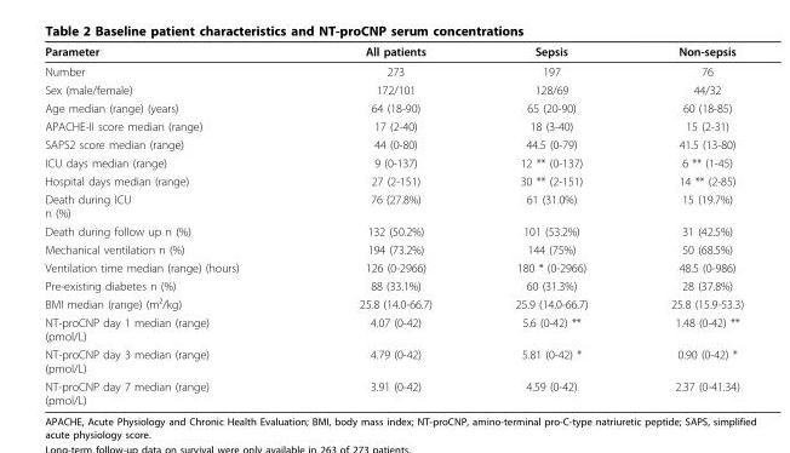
<table><thead><tr><td>Parameter</td><td>All patients</td><td>Sepsis</td><td>Non-sepsis</td></tr></thead><tbody><tr><td>Number</td><td>273</td><td>197</td><td>76</td></tr><tr><td>Sex (male/female)</td><td>172/101</td><td>128/69</td><td>44/32</td></tr><tr><td>Age median (range) (years)</td><td>64 (18-90)</td><td>65 (20-90)</td><td>60 (18-85)</td></tr><tr><td>APACHE-II score median (range)</td><td>17 (2-40)</td><td>18 (3-40)</td><td>15 (2-31)</td></tr><tr><td>SAPS2 score median (range)</td><td>44 (0-80)</td><td>44.5 (0-79)</td><td>41.5 (13-80)</td></tr><tr><td>ICU days median (range)</td><td>9 (0-137)</td><td>12 ** (0-137)</td><td>6 ** (1-45)</td></tr><tr><td>Hospital days median (range)</td><td>27 (2-151)</td><td>30 ** (2-151)</td><td>14 ** (2-85)</td></tr><tr><td>Death during ICU n (%)</td><td>76 (27.8%)</td><td>61 (31.0%)</td><td>15 (19.7%)</td></tr><tr><td>Death during follow up n (%)</td><td>132 (50.2%)</td><td>101 (53.2%)</td><td>31 (42.5%)</td></tr><tr><td>Mechanical ventilation n (%)</td><td>194 (73.2%)</td><td>144 (75%)</td><td>50 (68.5%)</td></tr><tr><td>Ventilation time median (range) (hours)</td><td>126 (0-2966)</td><td>180 * (0-2966)</td><td>48.5 (0-986)</td></tr><tr><td>Pre-existing diabetes n (%)</td><td>88 (33.1%)</td><td>60 (31.3%)</td><td>28 (37.8%)</td></tr><tr><td>BMI median (range) (m²/kg)</td><td>25.8 (14.0-66.7)</td><td>25.9 (14.0-66.7)</td><td>25.8 (15.9-53.3)</td></tr><tr><td>NT-proCNP day 1 median (range) (pmol/L)</td><td>4.07 (0-42)</td><td>5.6 (0-42) **</td><td>1.48 (0-42) **</td></tr><tr><td>NT-proCNP day 3 median (range) (pmol/L)</td><td>4.79 (0-42)</td><td>5.81 (0-42) *</td><td>0.90 (0-42) *</td></tr><tr><td>NT-proCNP day 7 median (range) (pmol/L)</td><td>3.91 (0-42)</td><td>4.59 (0-42)</td><td>2.37 (0-41.34)</td></tr></tbody></table>